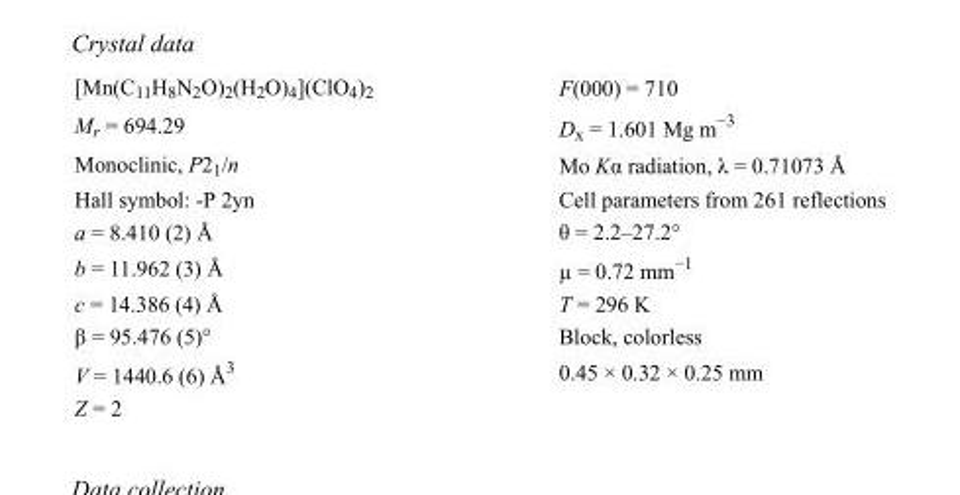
<table><tbody><tr><td>[Mn(C<sub>11</sub>H<sub>8</sub>N<sub>2</sub>O)<sub>2</sub>(H<sub>2</sub>O)<sub>4</sub>](ClO<sub>4</sub>)<sub>2</sub></td><td>F(000) = 710</td></tr><tr><td>M<sub>r</sub> = 694.29</td><td>D<sub>x</sub> = 1.601 Mg m<sup>−3</sup></td></tr><tr><td>Monoclinic, P2<sub>1</sub>/n</td><td>Mo Kα radiation, λ = 0.71073 Å</td></tr><tr><td>Hall symbol: -P 2yn</td><td>Cell parameters from 261 reflections</td></tr><tr><td>a = 8.410 (2) Å</td><td>θ = 2.2–27.2°</td></tr><tr><td>b = 11.962 (3) Å</td><td>µ = 0.72 mm<sup>−1</sup></td></tr><tr><td>c = 14.386 (4) Å</td><td>T = 296 K</td></tr><tr><td>β = 95.476 (5)°</td><td>Block, colorless</td></tr><tr><td>V = 1440.6 (6) Å<sup>3</sup></td><td>0.45 × 0.32 × 0.25 mm</td></tr><tr><td>Z = 2</td><td></td></tr></tbody></table>